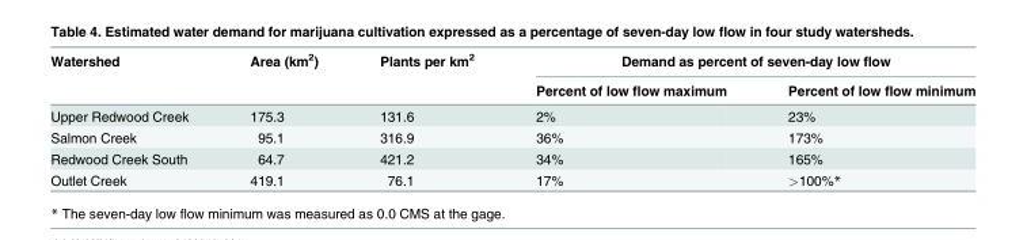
<table><thead><tr><td rowspan="2">Watershed</td><td rowspan="2">Area (km<sup>2</sup>)</td><td rowspan="2">Plants per km<sup>2</sup></td><td colspan="2">Demand as percent of seven-day low flow</td></tr><tr><td>Percent of low flow maximum</td><td>Percent of low flow minimum</td></tr></thead><tbody><tr><td>Upper Redwood Creek</td><td>175.3</td><td>131.6</td><td>2%</td><td>23%</td></tr><tr><td>Salmon Creek</td><td>95.1</td><td>316.9</td><td>36%</td><td>173%</td></tr><tr><td>Redwood Creek South</td><td>64.7</td><td>421.2</td><td>34%</td><td>165%</td></tr><tr><td>Outlet Creek</td><td>419.1</td><td>76.1</td><td>17%</td><td>&gt;100%*</td></tr></tbody></table>